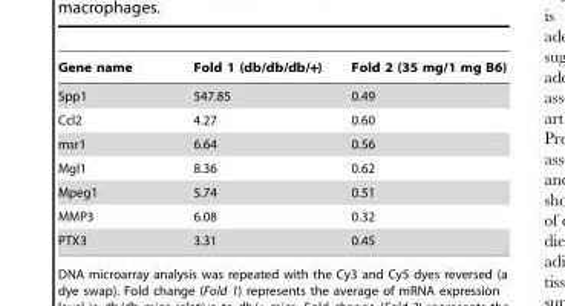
<table><thead><tr><td>Gene name</td><td>Fold 1 (db/db/db/+)</td><td>Fold 2 (35 mg/1 mg B6)</td></tr></thead><tbody><tr><td>Spp1</td><td>547.85</td><td>0.49</td></tr><tr><td>Ccl2</td><td>4.27</td><td>0.60</td></tr><tr><td>msr1</td><td>6.64</td><td>0.56</td></tr><tr><td>Mgl1</td><td>8.36</td><td>0.62</td></tr><tr><td>Mpeg1</td><td>5.74</td><td>0.51</td></tr><tr><td>MMP3</td><td>6.08</td><td>0.32</td></tr><tr><td>PTX3</td><td>3.31</td><td>0.45</td></tr></tbody></table>